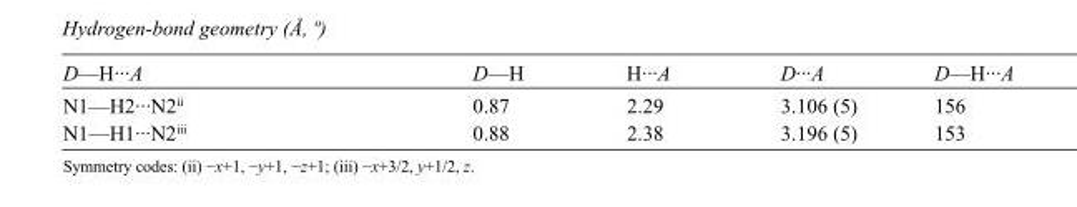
<table><tbody><tr><td>D—H···A</td><td>D—H</td><td>H···A</td><td>D···A</td><td>D—H···A</td></tr><tr><td>N1—H2···N2<sup>ii</sup></td><td>0.87</td><td>2.29</td><td>3.106 (5)</td><td>156</td></tr><tr><td>N1—H1···N2<sup>iii</sup></td><td>0.88</td><td>2.38</td><td>3.196 (5)</td><td>153</td></tr></tbody></table>